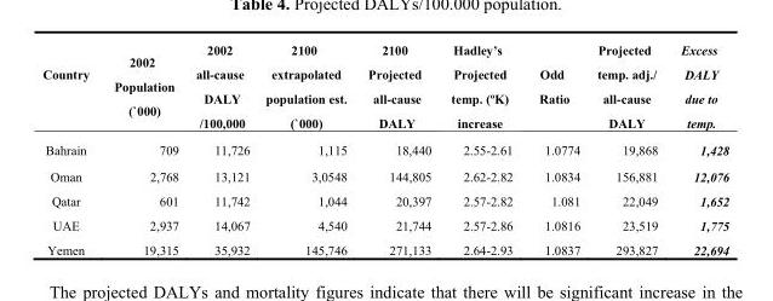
<table><thead><tr><td>Country</td><td>2002 Population (`000)</td><td>2002 all-cause DALY /100,000</td><td>2100 extrapolated population est. (`000)</td><td>2100 Projected all-cause DALY</td><td>Hadley’s Projected temp. (ºK) increase</td><td>Odd Ratio</td><td>Projected temp. adj./ all-cause DALY</td><td>Excess DALY due to temp.</td></tr></thead><tbody><tr><td>Bahrain</td><td>709</td><td>11,726</td><td>1,115</td><td>18,440</td><td>2.55-2.61</td><td>1.0774</td><td>19,868</td><td>1,428</td></tr><tr><td>Oman</td><td>2,768</td><td>13,121</td><td>3,0548</td><td>144,805</td><td>2.62-2.82</td><td>1.0834</td><td>156,881</td><td>12,076</td></tr><tr><td>Qatar</td><td>601</td><td>11,742</td><td>1,044</td><td>20,397</td><td>2.57-2.82</td><td>1.081</td><td>22,049</td><td>1,652</td></tr><tr><td>UAE</td><td>2,937</td><td>14,067</td><td>4,540</td><td>21,744</td><td>2.57-2.86</td><td>1.0816</td><td>23,519</td><td>1,775</td></tr><tr><td>Yemen</td><td>19,315</td><td>35,932</td><td>145,746</td><td>271,133</td><td>2.64-2.93</td><td>1.0837</td><td>293,827</td><td>22,694</td></tr></tbody></table>